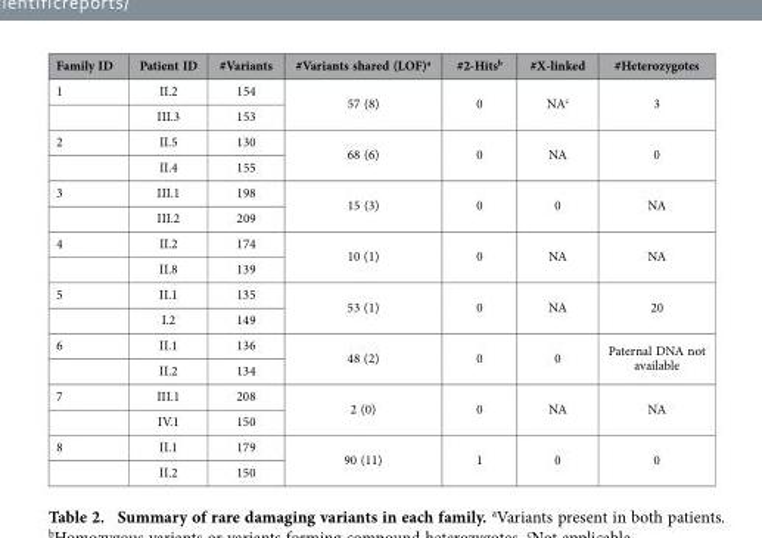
<table><thead><tr><td>Family ID</td><td>Patient ID</td><td>#Variants</td><td>#Variants shared (LOF)<sup>a</sup></td><td>#2-Hits<sup>b</sup></td><td>#X-linked</td><td>#Heterozygotes</td></tr></thead><tbody><tr><td rowspan="2">1</td><td>II.2</td><td>154</td><td rowspan="2">57 (8)</td><td rowspan="2">0</td><td rowspan="2">NA<sup>c</sup></td><td rowspan="2">3</td></tr><tr><td>III.3</td><td>153</td></tr><tr><td rowspan="2">2</td><td>II.5</td><td>130</td><td rowspan="2">68 (6)</td><td rowspan="2">0</td><td rowspan="2">NA</td><td rowspan="2">0</td></tr><tr><td>II.4</td><td>155</td></tr><tr><td rowspan="2">3</td><td>III.1</td><td>198</td><td rowspan="2">15 (3)</td><td rowspan="2">0</td><td rowspan="2">0</td><td rowspan="2">NA</td></tr><tr><td>III.2</td><td>209</td></tr><tr><td rowspan="2">4</td><td>II.2</td><td>174</td><td rowspan="2">10 (1)</td><td rowspan="2">0</td><td rowspan="2">NA</td><td rowspan="2">NA</td></tr><tr><td>II.8</td><td>139</td></tr><tr><td rowspan="2">5</td><td>II.1</td><td>135</td><td rowspan="2">53 (1)</td><td rowspan="2">0</td><td rowspan="2">NA</td><td rowspan="2">20</td></tr><tr><td>I.2</td><td>149</td></tr><tr><td rowspan="2">6</td><td>II.1</td><td>136</td><td rowspan="2">48 (2)</td><td rowspan="2">0</td><td rowspan="2">0</td><td rowspan="2">Paternal DNA not available</td></tr><tr><td>II.2</td><td>134</td></tr><tr><td rowspan="2">7</td><td>III.1</td><td>208</td><td rowspan="2">2 (0)</td><td rowspan="2">0</td><td rowspan="2">NA</td><td rowspan="2">NA</td></tr><tr><td>IV.1</td><td>150</td></tr><tr><td rowspan="2">8</td><td>II.1</td><td>179</td><td rowspan="2">90 (11)</td><td rowspan="2">1</td><td rowspan="2">0</td><td rowspan="2">0</td></tr><tr><td>II.2</td><td>150</td></tr></tbody></table>